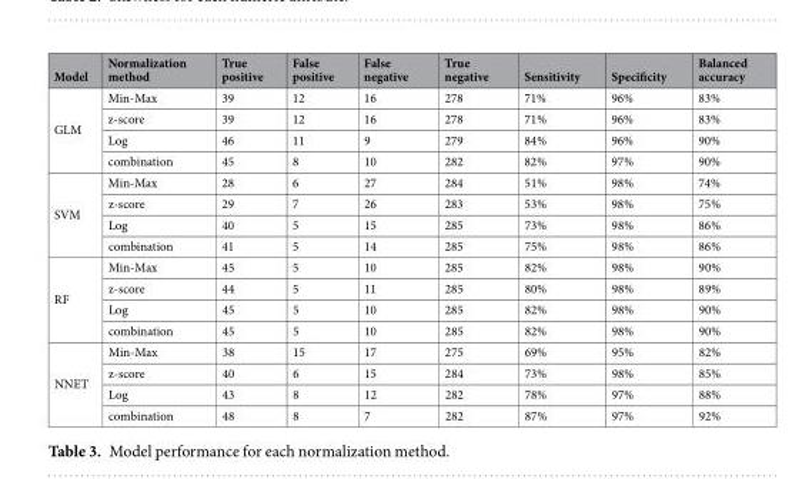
<table><thead><tr><td>Model</td><td>Normalization method</td><td>True positive</td><td>False positive</td><td>False negative</td><td>True negative</td><td>Sensitivity</td><td>Specificity</td><td>Balanced accuracy</td></tr></thead><tbody><tr><td rowspan="4">GLM</td><td>Min-Max</td><td>39</td><td>12</td><td>16</td><td>278</td><td>71%</td><td>96%</td><td>83%</td></tr><tr><td>z-score</td><td>39</td><td>12</td><td>16</td><td>278</td><td>71%</td><td>96%</td><td>83%</td></tr><tr><td>Log</td><td>46</td><td>11</td><td>9</td><td>279</td><td>84%</td><td>96%</td><td>90%</td></tr><tr><td>combination</td><td>45</td><td>8</td><td>10</td><td>282</td><td>82%</td><td>97%</td><td>90%</td></tr><tr><td rowspan="4">SVM</td><td>Min-Max</td><td>28</td><td>6</td><td>27</td><td>284</td><td>51%</td><td>98%</td><td>74%</td></tr><tr><td>z-score</td><td>29</td><td>7</td><td>26</td><td>283</td><td>53%</td><td>98%</td><td>75%</td></tr><tr><td>Log</td><td>40</td><td>5</td><td>15</td><td>285</td><td>73%</td><td>98%</td><td>86%</td></tr><tr><td>combination</td><td>41</td><td>5</td><td>14</td><td>285</td><td>75%</td><td>98%</td><td>86%</td></tr><tr><td rowspan="4">RF</td><td>Min-Max</td><td>45</td><td>5</td><td>10</td><td>285</td><td>82%</td><td>98%</td><td>90%</td></tr><tr><td>z-score</td><td>44</td><td>5</td><td>11</td><td>285</td><td>80%</td><td>98%</td><td>89%</td></tr><tr><td>Log</td><td>45</td><td>5</td><td>10</td><td>285</td><td>82%</td><td>98%</td><td>90%</td></tr><tr><td>combination</td><td>45</td><td>5</td><td>10</td><td>285</td><td>82%</td><td>98%</td><td>90%</td></tr><tr><td rowspan="4">NNET</td><td>Min-Max</td><td>38</td><td>15</td><td>17</td><td>275</td><td>69%</td><td>95%</td><td>82%</td></tr><tr><td>z-score</td><td>40</td><td>6</td><td>15</td><td>284</td><td>73%</td><td>98%</td><td>85%</td></tr><tr><td>Log</td><td>43</td><td>8</td><td>12</td><td>282</td><td>78%</td><td>97%</td><td>88%</td></tr><tr><td>combination</td><td>48</td><td>8</td><td>7</td><td>282</td><td>87%</td><td>97%</td><td>92%</td></tr></tbody></table>